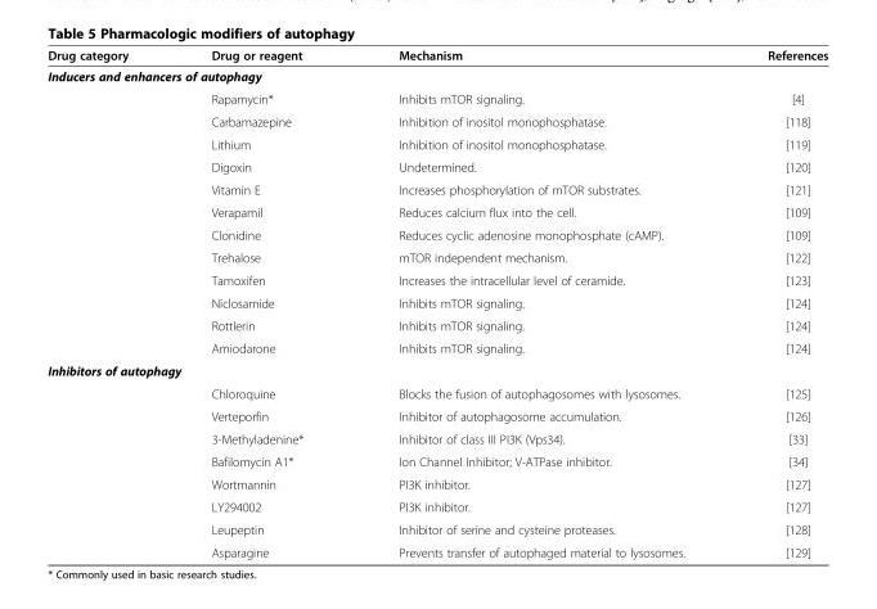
<table><thead><tr><td>Drug category</td><td>Drug or reagent</td><td>Mechanism</td><td>References</td></tr></thead><tbody><tr><td colspan="4">Inducers and enhancers of autophagy</td></tr><tr><td></td><td>Rapamycin*</td><td>Inhibits mTOR signaling.</td><td>[4]</td></tr><tr><td></td><td>Carbamazepine</td><td>Inhibition of inositol monophosphatase.</td><td>[118]</td></tr><tr><td></td><td>Lithium</td><td>Inhibition of inositol monophosphatase.</td><td>[119]</td></tr><tr><td></td><td>Digoxin</td><td>Undetermined.</td><td>[120]</td></tr><tr><td></td><td>Vitamin E</td><td>Increases phosphorylation of mTOR substrates.</td><td>[121]</td></tr><tr><td></td><td>Verapamil</td><td>Reduces calcium flux into the cell.</td><td>[109]</td></tr><tr><td></td><td>Clonidine</td><td>Reduces cyclic adenosine monophosphate (cAMP).</td><td>[109]</td></tr><tr><td></td><td>Trehalose</td><td>mTOR independent mechanism.</td><td>[122]</td></tr><tr><td></td><td>Tamoxifen</td><td>Increases the intracellular level of ceramide.</td><td>[123]</td></tr><tr><td></td><td>Niclosamide</td><td>Inhibits mTOR signaling.</td><td>[124]</td></tr><tr><td></td><td>Rottlerin</td><td>Inhibits mTOR signaling.</td><td>[124]</td></tr><tr><td></td><td>Amiodarone</td><td>Inhibits mTOR signaling.</td><td>[124]</td></tr><tr><td colspan="4">Inhibitors of autophagy</td></tr><tr><td></td><td>Chloroquine</td><td>Blocks the fusion of autophagosomes with lysosomes.</td><td>[125]</td></tr><tr><td></td><td>Verteporfin</td><td>Inhibitor of autophagosome accumulation.</td><td>[126]</td></tr><tr><td></td><td>3-Methyladenine*</td><td>Inhibitor of class III PI3K (Vps34).</td><td>[33]</td></tr><tr><td></td><td>Bafilomycin A1*</td><td>Ion Channel Inhibitor; V-ATPase inhibitor.</td><td>[34]</td></tr><tr><td></td><td>Wortmannin</td><td>PI3K inhibitor.</td><td>[127]</td></tr><tr><td></td><td>LY294002</td><td>PI3K inhibitor.</td><td>[127]</td></tr><tr><td></td><td>Leupeptin</td><td>Inhibitor of serine and cysteine proteases.</td><td>[128]</td></tr><tr><td></td><td>Asparagine</td><td>Prevents transfer of autophaged material to lysosomes.</td><td>[129]</td></tr></tbody></table>